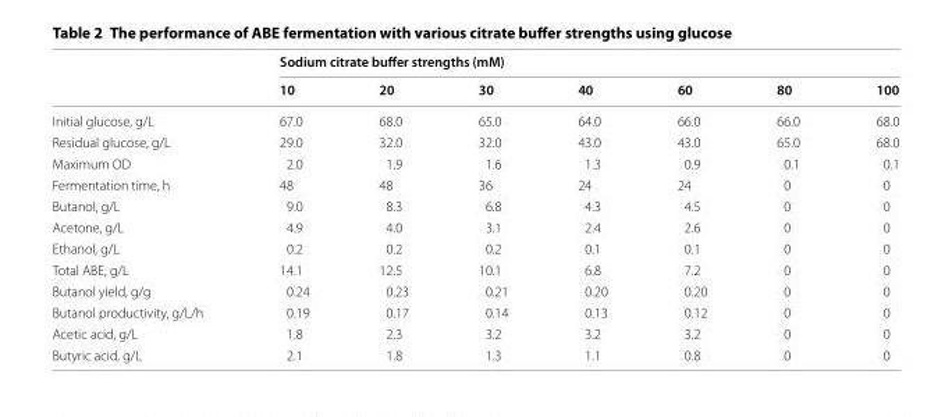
<table><thead><tr><td rowspan="2"></td><td colspan="7">Sodium citrate buffer strengths (mM)</td></tr><tr><td>10</td><td>20</td><td>30</td><td>40</td><td>60</td><td>80</td><td>100</td></tr></thead><tbody><tr><td>Initial glucose, g/L</td><td>67.0</td><td>68.0</td><td>65.0</td><td>64.0</td><td>66.0</td><td>66.0</td><td>68.0</td></tr><tr><td>Residual glucose, g/L</td><td>29.0</td><td>32.0</td><td>32.0</td><td>43.0</td><td>43.0</td><td>65.0</td><td>68.0</td></tr><tr><td>Maximum OD</td><td>2.0</td><td>1.9</td><td>1.6</td><td>1.3</td><td>0.9</td><td>0.1</td><td>0.1</td></tr><tr><td>Fermentation time, h</td><td>48</td><td>48</td><td>36</td><td>24</td><td>24</td><td>0</td><td>0</td></tr><tr><td>Butanol, g/L</td><td>9.0</td><td>8.3</td><td>6.8</td><td>4.3</td><td>4.5</td><td>0</td><td>0</td></tr><tr><td>Acetone, g/L</td><td>4.9</td><td>4.0</td><td>3.1</td><td>2.4</td><td>2.6</td><td>0</td><td>0</td></tr><tr><td>Ethanol, g/L</td><td>0.2</td><td>0.2</td><td>0.2</td><td>0.1</td><td>0.1</td><td>0</td><td>0</td></tr><tr><td>Total ABE, g/L</td><td>14.1</td><td>12.5</td><td>10.1</td><td>6.8</td><td>7.2</td><td>0</td><td>0</td></tr><tr><td>Butanol yield, g/g</td><td>0.24</td><td>0.23</td><td>0.21</td><td>0.20</td><td>0.20</td><td>0</td><td>0</td></tr><tr><td>Butanol productivity, g/L/h</td><td>0.19</td><td>0.17</td><td>0.14</td><td>0.13</td><td>0.12</td><td>0</td><td>0</td></tr><tr><td>Acetic acid, g/L</td><td>1.8</td><td>2.3</td><td>3.2</td><td>3.2</td><td>3.2</td><td>0</td><td>0</td></tr><tr><td>Butyric acid, g/L</td><td>2.1</td><td>1.8</td><td>1.3</td><td>1.1</td><td>0.8</td><td>0</td><td>0</td></tr></tbody></table>